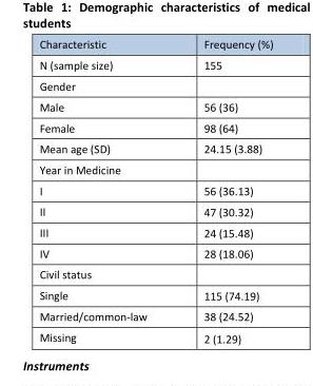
<table><thead><tr><td>Characteristic</td><td>Frequency (%)</td></tr></thead><tbody><tr><td>N (sample size)</td><td>155</td></tr><tr><td colspan="2">Gender</td></tr><tr><td>Male</td><td>56 (36)</td></tr><tr><td>Female</td><td>98 (64)</td></tr><tr><td>Mean age (SD)</td><td>24.15 (3.88)</td></tr><tr><td colspan="2">Year in Medicine</td></tr><tr><td>I</td><td>56 (36.13)</td></tr><tr><td>II</td><td>47 (30.32)</td></tr><tr><td>III</td><td>24 (15.48)</td></tr><tr><td>IV</td><td>28 (18.06)</td></tr><tr><td colspan="2">Civil status</td></tr><tr><td>Single</td><td>115 (74.19)</td></tr><tr><td>Married/common-law</td><td>38 (24.52)</td></tr><tr><td>Missing</td><td>2 (1.29)</td></tr></tbody></table>